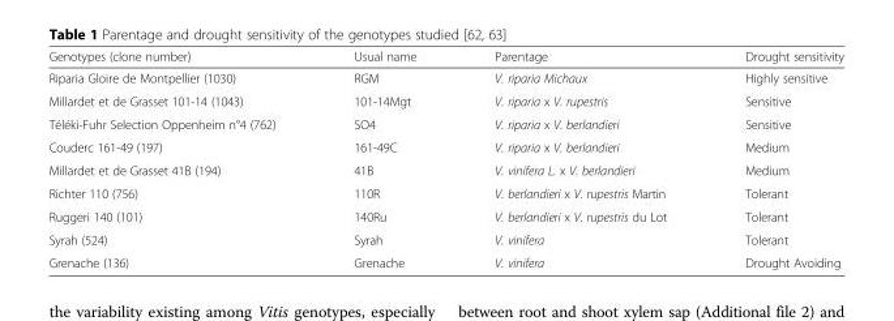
<table><thead><tr><td>Genotypes (clone number)</td><td>Usual name</td><td>Parentage</td><td>Drought sensitivity</td></tr></thead><tbody><tr><td>Riparia Gloire de Montpellier (1030)</td><td>RGM</td><td>V. riparia Michaux</td><td>Highly sensitive</td></tr><tr><td>Millardet et de Grasset 101-14 (1043)</td><td>101-14Mgt</td><td>V. riparia x V. rupestris</td><td>Sensitive</td></tr><tr><td>Téléki-Fuhr Selection Oppenheim n°4 (762)</td><td>SO4</td><td>V. riparia x V. berlandieri</td><td>Sensitive</td></tr><tr><td>Couderc 161-49 (197)</td><td>161-49C</td><td>V. riparia x V. berlandieri</td><td>Medium</td></tr><tr><td>Millardet et de Grasset 41B (194)</td><td>41B</td><td>V. vinifera L. x V. berlandieri</td><td>Medium</td></tr><tr><td>Richter 110 (756)</td><td>110R</td><td>V. berlandieri x V. rupestris Martin</td><td>Tolerant</td></tr><tr><td>Ruggeri 140 (101)</td><td>140Ru</td><td>V. berlandieri x V. rupestris du Lot</td><td>Tolerant</td></tr><tr><td>Syrah (524)</td><td>Syrah</td><td>V. vinifera</td><td>Tolerant</td></tr><tr><td>Grenache (136)</td><td>Grenache</td><td>V. vinifera</td><td>Drought Avoiding</td></tr></tbody></table>